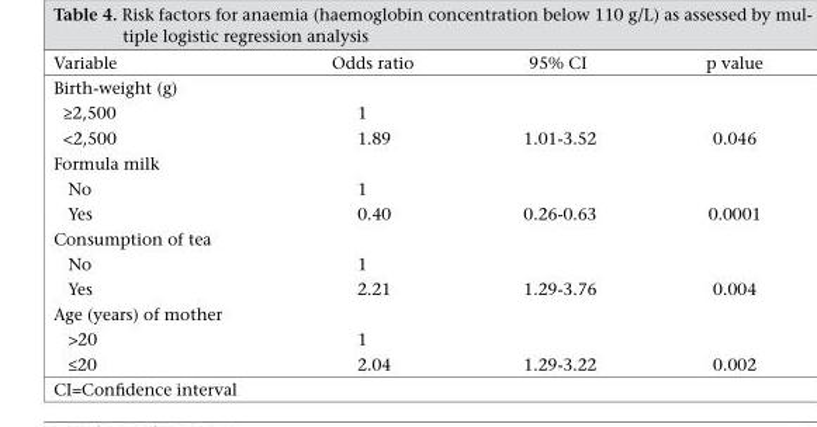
<table><thead><tr><td>Variable</td><td>Odds ratio</td><td>95% CI</td><td>p value</td></tr></thead><tbody><tr><td colspan="4">Birth-weight (g)</td></tr><tr><td>≥2,500</td><td>1</td><td></td><td></td></tr><tr><td>&lt;2,500</td><td>1.89</td><td>1.01-3.52</td><td>0.046</td></tr><tr><td colspan="4">Formula milk</td></tr><tr><td>No</td><td>1</td><td></td><td></td></tr><tr><td>Yes</td><td>0.40</td><td>0.26-0.63</td><td>0.0001</td></tr><tr><td colspan="4">Consumption of tea</td></tr><tr><td>No</td><td>1</td><td></td><td></td></tr><tr><td>Yes</td><td>2.21</td><td>1.29-3.76</td><td>0.004</td></tr><tr><td colspan="4">Age (years) of mother</td></tr><tr><td>&gt;20</td><td>1</td><td></td><td></td></tr><tr><td>≤20</td><td>2.04</td><td>1.29-3.22</td><td>0.002</td></tr></tbody></table>